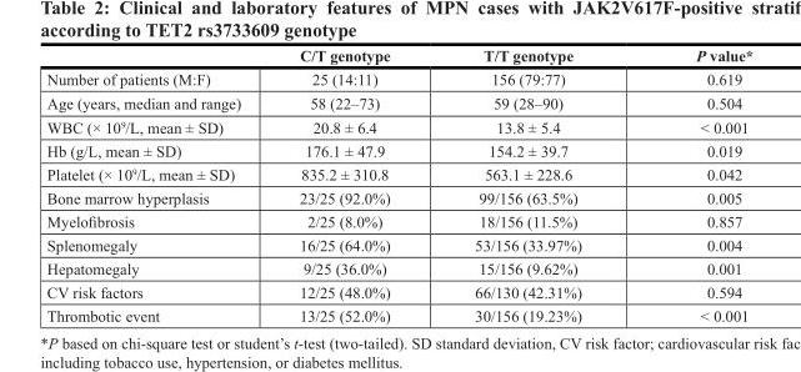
<table><thead><tr><td></td><td>C/T genotype</td><td>T/T genotype</td><td>P value﹡</td></tr></thead><tbody><tr><td>Number of patients (M:F)</td><td>25 (14:11)</td><td>156 (79:77)</td><td>0.619</td></tr><tr><td>Age (years, median and range)</td><td>58 (22–73)</td><td>59 (28–90)</td><td>0.504</td></tr><tr><td>WBC (× 10<sup>9</sup>/L, mean ± SD)</td><td>20.8 ± 6.4</td><td>13.8 ± 5.4</td><td>&lt; 0.001</td></tr><tr><td>Hb (g/L, mean ± SD)</td><td>176.1 ± 47.9</td><td>154.2 ± 39.7</td><td>0.019</td></tr><tr><td>Platelet (× 10<sup>9</sup>/L, mean ± SD)</td><td>835.2 ± 310.8</td><td>563.1 ± 228.6</td><td>0.042</td></tr><tr><td>Bone marrow hyperplasis</td><td>23/25 (92.0%)</td><td>99/156 (63.5%)</td><td>0.005</td></tr><tr><td>Myelofibrosis</td><td>2/25 (8.0%)</td><td>18/156 (11.5%)</td><td>0.857</td></tr><tr><td>Splenomegaly</td><td>16/25 (64.0%)</td><td>53/156 (33.97%)</td><td>0.004</td></tr><tr><td>Hepatomegaly</td><td>9/25 (36.0%)</td><td>15/156 (9.62%)</td><td>0.001</td></tr><tr><td>CV risk factors</td><td>12/25 (48.0%)</td><td>66/130 (42.31%)</td><td>0.594</td></tr><tr><td>Thrombotic event</td><td>13/25 (52.0%)</td><td>30/156 (19.23%)</td><td>&lt; 0.001</td></tr></tbody></table>